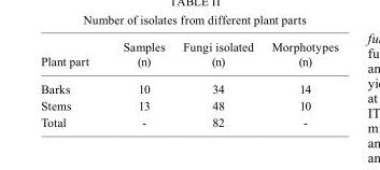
<table><thead><tr><td>Plant part</td><td>Samples (n)</td><td>Fungi isolated (n)</td><td>Morphotypes (n)</td></tr></thead><tbody><tr><td>Barks</td><td>10</td><td>34</td><td>14</td></tr><tr><td>Stems</td><td>13</td><td>48</td><td>10</td></tr><tr><td>Total</td><td>-</td><td>82</td><td>-</td></tr></tbody></table>